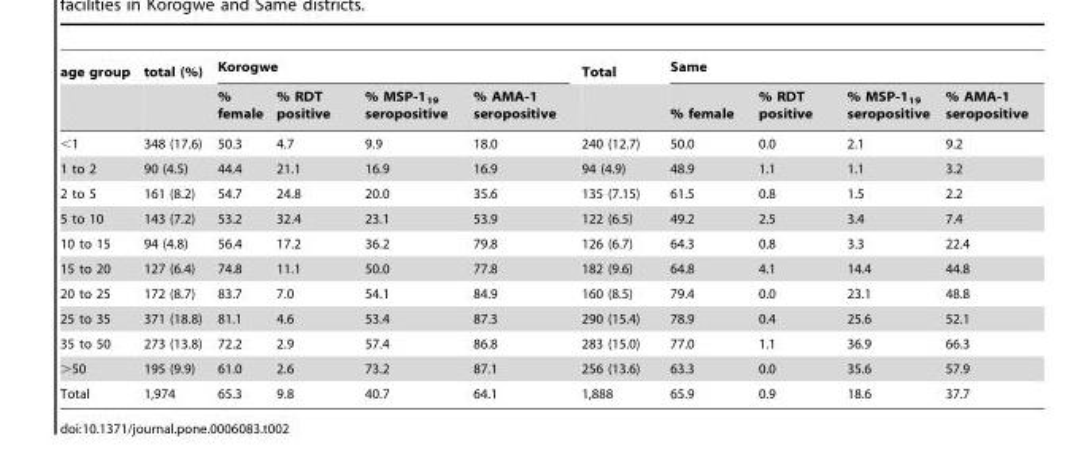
<table><thead><tr><td rowspan="2">age group</td><td rowspan="2">total (%)</td><td colspan="4">Korogwe</td><td rowspan="2">Total</td><td colspan="4">Same</td></tr><tr><td>% female</td><td>% RDT positive</td><td>% MSP-1<sub>19</sub> seropositive</td><td>% AMA-1 seropositive</td><td>% female</td><td>% RDT positive</td><td>% MSP-1<sub>19</sub> seropositive</td><td>% AMA-1 seropositive</td></tr></thead><tbody><tr><td>&lt;1</td><td>348 (17.6)</td><td>50.3</td><td>4.7</td><td>9.9</td><td>18.0</td><td>240 (12.7)</td><td>50.0</td><td>0.0</td><td>2.1</td><td>9.2</td></tr><tr><td>1 to 2</td><td>90 (4.5)</td><td>44.4</td><td>21.1</td><td>16.9</td><td>16.9</td><td>94 (4.9)</td><td>48.9</td><td>1.1</td><td>1.1</td><td>3.2</td></tr><tr><td>2 to 5</td><td>161 (8.2)</td><td>54.7</td><td>24.8</td><td>20.0</td><td>35.6</td><td>135 (7.15)</td><td>61.5</td><td>0.8</td><td>1.5</td><td>2.2</td></tr><tr><td>5 to 10</td><td>143 (7.2)</td><td>53.2</td><td>32.4</td><td>23.1</td><td>53.9</td><td>122 (6.5)</td><td>49.2</td><td>2.5</td><td>3.4</td><td>7.4</td></tr><tr><td>10 to 15</td><td>94 (4.8)</td><td>56.4</td><td>17.2</td><td>36.2</td><td>79.8</td><td>126 (6.7)</td><td>64.3</td><td>0.8</td><td>3.3</td><td>22.4</td></tr><tr><td>15 to 20</td><td>127 (6.4)</td><td>74.8</td><td>11.1</td><td>50.0</td><td>77.8</td><td>182 (9.6)</td><td>64.8</td><td>4.1</td><td>14.4</td><td>44.8</td></tr><tr><td>20 to 25</td><td>172 (8.7)</td><td>83.7</td><td>7.0</td><td>54.1</td><td>84.9</td><td>160 (8.5)</td><td>79.4</td><td>0.0</td><td>23.1</td><td>48.8</td></tr><tr><td>25 to 35</td><td>371 (18.8)</td><td>81.1</td><td>4.6</td><td>53.4</td><td>87.3</td><td>290 (15.4)</td><td>78.9</td><td>0.4</td><td>25.6</td><td>52.1</td></tr><tr><td>35 to 50</td><td>273 (13.8)</td><td>72.2</td><td>2.9</td><td>57.4</td><td>86.8</td><td>283 (15.0)</td><td>77.0</td><td>1.1</td><td>36.9</td><td>66.3</td></tr><tr><td>&gt;50</td><td>195 (9.9)</td><td>61.0</td><td>2.6</td><td>73.2</td><td>87.1</td><td>256 (13.6)</td><td>63.3</td><td>0.0</td><td>35.6</td><td>57.9</td></tr><tr><td>Total</td><td>1,974</td><td>65.3</td><td>9.8</td><td>40.7</td><td>64.1</td><td>1,888</td><td>65.9</td><td>0.9</td><td>18.6</td><td>37.7</td></tr></tbody></table>